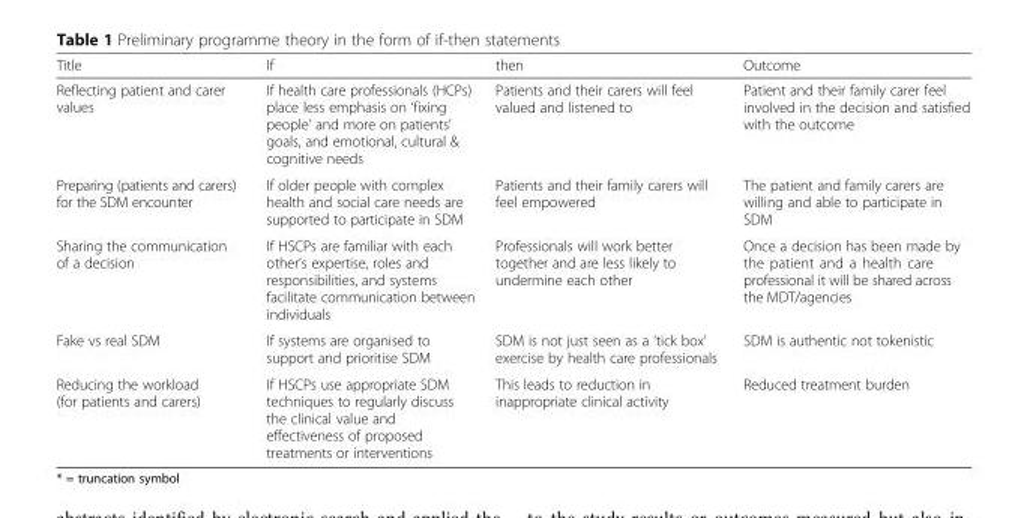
<table><thead><tr><td>Title</td><td>If</td><td>then</td><td>Outcome</td></tr></thead><tbody><tr><td>Reflecting patient and carer values</td><td>If health care professionals (HCPs) place less emphasis on ‘fixing people’ and more on patients’ goals, and emotional, cultural &amp; cognitive needs</td><td>Patients and their carers will feel valued and listened to</td><td>Patient and their family carer feel involved in the decision and satisfied with the outcome</td></tr><tr><td>Preparing (patients and carers) for the SDM encounter</td><td>If older people with complex health and social care needs are supported to participate in SDM</td><td>Patients and their family carers will feel empowered</td><td>The patient and family carers are willing and able to participate in SDM</td></tr><tr><td>Sharing the communication of a decision</td><td>If HSCPs are familiar with each other’s expertise, roles and responsibilities, and systems facilitate communication between individuals</td><td>Professionals will work better together and are less likely to undermine each other</td><td>Once a decision has been made by the patient and a health care professional it will be shared across the MDT/agencies</td></tr><tr><td>Fake vs real SDM</td><td>If systems are organised to support and prioritise SDM</td><td>SDM is not just seen as a ‘tick box’ exercise by health care professionals</td><td>SDM is authentic not tokenistic</td></tr><tr><td>Reducing the workload (for patients and carers)</td><td>If HSCPs use appropriate SDM techniques to regularly discuss the clinical value and effectiveness of proposed treatments or interventions</td><td>This leads to reduction in inappropriate clinical activity</td><td>Reduced treatment burden</td></tr></tbody></table>